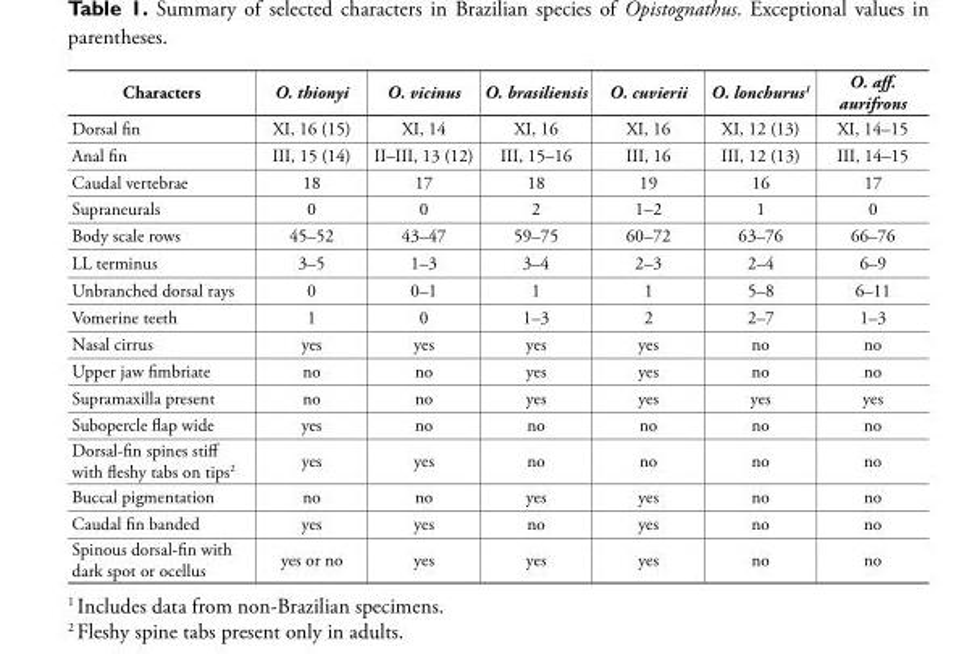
<table><thead><tr><td>Characters</td><td>O. thionyi</td><td>O. vicinus</td><td>O. brasiliensis</td><td>O. cuvierii</td><td>O. lonchurus<sup>1</sup></td><td>O. aff. aurifrons</td></tr></thead><tbody><tr><td>Dorsal fin</td><td>XI, 16 (15)</td><td>XI, 14</td><td>XI, 16</td><td>XI, 16</td><td>XI, 12 (13)</td><td>XI, 14–15</td></tr><tr><td>Anal fin</td><td>III, 15 (14)</td><td>II–III, 13 (12)</td><td>III, 15–16</td><td>III, 16</td><td>III, 12 (13)</td><td>III, 14–15</td></tr><tr><td>Caudal vertebrae</td><td>18</td><td>17</td><td>18</td><td>19</td><td>16</td><td>17</td></tr><tr><td>Supraneurals</td><td>0</td><td>0</td><td>2</td><td>1–2</td><td>1</td><td>0</td></tr><tr><td>Body scale rows</td><td>45–52</td><td>43–47</td><td>59–75</td><td>60–72</td><td>63–76</td><td>66–76</td></tr><tr><td>LL terminus</td><td>3–5</td><td>1–3</td><td>3–4</td><td>2–3</td><td>2–4</td><td>6–9</td></tr><tr><td>Unbranched dorsal rays</td><td>0</td><td>0–1</td><td>1</td><td>1</td><td>5–8</td><td>6–11</td></tr><tr><td>Vomerine teeth</td><td>1</td><td>0</td><td>1–3</td><td>2</td><td>2–7</td><td>1–3</td></tr><tr><td>Nasal cirrus</td><td>yes</td><td>yes</td><td>yes</td><td>yes</td><td>no</td><td>no</td></tr><tr><td>Upper jaw fimbriate</td><td>no</td><td>no</td><td>yes</td><td>yes</td><td>no</td><td>no</td></tr><tr><td>Supramaxilla present</td><td>no</td><td>no</td><td>yes</td><td>yes</td><td>yes</td><td>yes</td></tr><tr><td>Subopercle flap wide</td><td>yes</td><td>no</td><td>no</td><td>no</td><td>no</td><td>no</td></tr><tr><td>Dorsal-fin spines stiff with fleshy tabs on tips<sup>2</sup></td><td>yes</td><td>yes</td><td>no</td><td>no</td><td>no</td><td>no</td></tr><tr><td>Buccal pigmentation</td><td>no</td><td>no</td><td>yes</td><td>yes</td><td>no</td><td>no</td></tr><tr><td>Caudal fin banded</td><td>yes</td><td>yes</td><td>no</td><td>yes</td><td>no</td><td>no</td></tr><tr><td>Spinous dorsal-fin with dark spot or ocellus</td><td>yes or no</td><td>yes</td><td>yes</td><td>yes</td><td>no</td><td>no</td></tr></tbody></table>